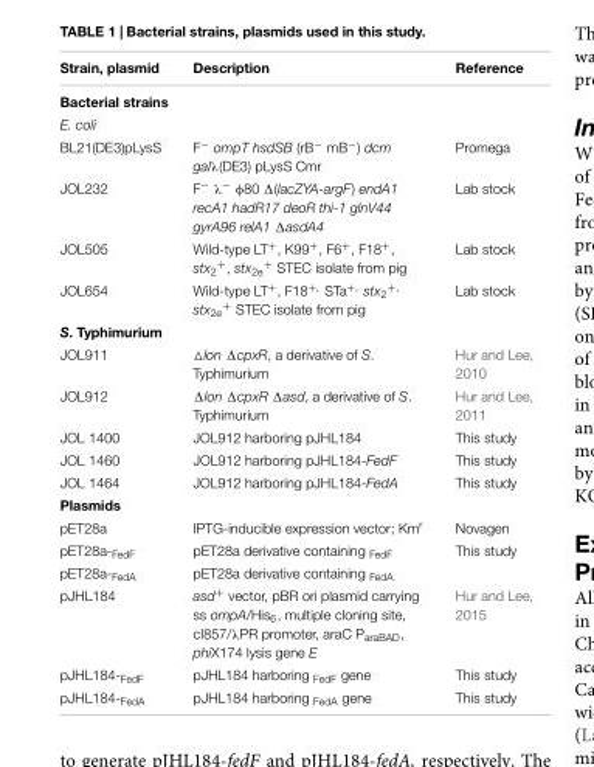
<table><thead><tr><td>Strain, plasmid</td><td>Description</td><td>Reference</td></tr></thead><tbody><tr><td colspan="3">Bacterial strains</td></tr><tr><td colspan="3">E. coli</td></tr><tr><td>BL21(DE3)pLysS</td><td>F<sup>−</sup> ompT hsdSB (rB<sup>−</sup> mB<sup>−</sup>) dcm galλ(DE3) pLysS Cmr</td><td>Promega</td></tr><tr><td>JOL232</td><td>F<sup>−</sup> λ<sup>−</sup> φ80 Δ(lacZYA-argF) endA1 recA1 hadR17 deoR thi-1 glnV44 gyrA96 relA1 ΔasdA4</td><td>Lab stock</td></tr><tr><td>JOL505</td><td>Wild-type LT<sup>+</sup>, K99<sup>+</sup>, F6<sup>+</sup>, F18<sup>+</sup>, stx<sub>2</sub><sup>+</sup>, stx<sub>2e</sub><sup>+</sup> STEC isolate from pig</td><td>Lab stock</td></tr><tr><td>JOL654</td><td>Wild-type LT<sup>+</sup>, F18<sup>+</sup>, STa<sup>+</sup>, stx<sub>2</sub><sup>+</sup>, stx<sub>2e</sub><sup>+</sup> STEC isolate from pig</td><td>Lab stock</td></tr><tr><td colspan="3">S. Typhimurium</td></tr><tr><td>JOL911</td><td>△lon �cpxR, a derivative of S. Typhimurium</td><td>Hur and Lee, 2010</td></tr><tr><td>JOL912</td><td>Δlon ΔcpxR Δasd, a derivative of S. Typhimurium</td><td>Hur and Lee, 2011</td></tr><tr><td>JOL 1400</td><td>JOL912 harboring pJHL184</td><td>This study</td></tr><tr><td>JOL 1460</td><td>JOL912 harboring pJHL184-FedF</td><td>This study</td></tr><tr><td>JOL 1464</td><td>JOL912 harboring pJHL184-FedA</td><td>This study</td></tr><tr><td colspan="3">Plasmids</td></tr><tr><td>pET28a</td><td>IPTG-inducible expression vector; Km<sup>r</sup></td><td>Novagen</td></tr><tr><td>pET28a-<sub>FedF</sub></td><td>pET28a derivative containing <sub>FedF</sub></td><td>This study</td></tr><tr><td>pET28a-<sub>FedA</sub></td><td>pET28a derivative containing <sub>FedA</sub></td><td></td></tr><tr><td>pJHL184</td><td>asd<sup>+</sup> vector, pBR ori plasmid carrying ss ompA/His<sub>6</sub>, multiple cloning site, cI857/λPR promoter, araC P<sub>araBAD</sub>, phiX174 lysis gene E</td><td>Hur and Lee, 2015</td></tr><tr><td>pJHL184-<sub>FedF</sub></td><td>pJHL184 harboring <sub>FedF</sub> gene</td><td>This study</td></tr><tr><td>pJHL184-<sub>FedA</sub></td><td>pJHL184 harboring <sub>FedA</sub> gene</td><td>This study</td></tr></tbody></table>